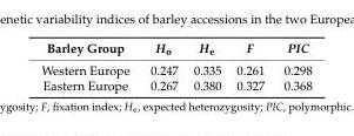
<table><thead><tr><td>Barley Group</td><td>H<sub>o</sub></td><td>H<sub>e</sub></td><td>F</td><td>PIC</td></tr></thead><tbody><tr><td>Western Europe</td><td>0.247</td><td>0.335</td><td>0.261</td><td>0.298</td></tr><tr><td>Eastern Europe</td><td>0.267</td><td>0.380</td><td>0.327</td><td>0.368</td></tr></tbody></table>